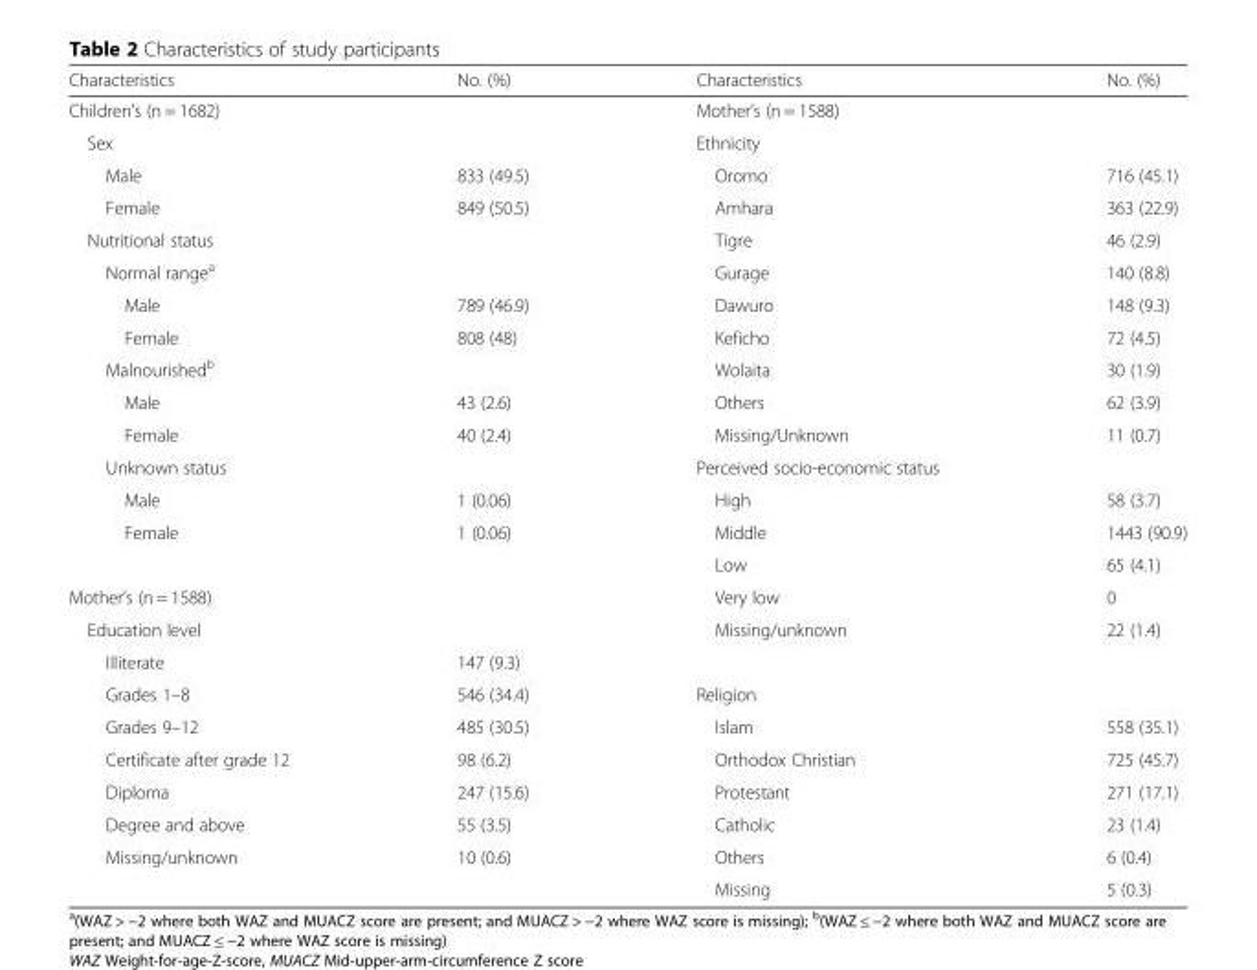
<table><thead><tr><td>Characteristics</td><td>No. (%)</td><td>Characteristics</td><td>No. (%)</td></tr></thead><tbody><tr><td>Children’s (n = 1682)</td><td></td><td>Mother’s (n = 1588)</td><td></td></tr><tr><td>Sex</td><td></td><td>Ethnicity</td><td></td></tr><tr><td>Male</td><td>833 (49.5)</td><td>Oromo</td><td>716 (45.1)</td></tr><tr><td>Female</td><td>849 (50.5)</td><td>Amhara</td><td>363 (22.9)</td></tr><tr><td>Nutritional status</td><td></td><td>Tigre</td><td>46 (2.9)</td></tr><tr><td>Normal range<sup>a</sup></td><td></td><td>Gurage</td><td>140 (8.8)</td></tr><tr><td>Male</td><td>789 (46.9)</td><td>Dawuro</td><td>148 (9.3)</td></tr><tr><td>Female</td><td>808 (48)</td><td>Keficho</td><td>72 (4.5)</td></tr><tr><td>Malnourished<sup>b</sup></td><td></td><td>Wolaita</td><td>30 (1.9)</td></tr><tr><td>Male</td><td>43 (2.6)</td><td>Others</td><td>62 (3.9)</td></tr><tr><td>Female</td><td>40 (2.4)</td><td>Missing/Unknown</td><td>11 (0.7)</td></tr><tr><td>Unknown status</td><td></td><td>Perceived socio-economic status</td><td></td></tr><tr><td>Male</td><td>1 (0.06)</td><td>High</td><td>58 (3.7)</td></tr><tr><td rowspan="2">Female</td><td>1 (0.06)</td><td>Middle</td><td>1443 (90.9)</td></tr><tr><td></td><td>Low</td><td>65 (4.1)</td></tr><tr><td>Mother’s (n = 1588)</td><td></td><td>Very low</td><td>0</td></tr><tr><td colspan="2">Education level</td><td rowspan="2">Missing/unknown</td><td rowspan="2">22 (1.4)</td></tr><tr><td>Illiterate</td><td>147 (9.3)</td></tr><tr><td>Grades 1–8</td><td>546 (34.4)</td><td>Religion</td><td></td></tr><tr><td>Grades 9–12</td><td>485 (30.5)</td><td>Islam</td><td>558 (35.1)</td></tr><tr><td>Certificate after grade 12</td><td>98 (6.2)</td><td>Orthodox Christian</td><td>725 (45.7)</td></tr><tr><td>Diploma</td><td>247 (15.6)</td><td>Protestant</td><td>271 (17.1)</td></tr><tr><td>Degree and above</td><td>55 (3.5)</td><td>Catholic</td><td>23 (1.4)</td></tr><tr><td rowspan="2">Missing/unknown</td><td>10 (0.6)</td><td>Others</td><td>6 (0.4)</td></tr><tr><td></td><td>Missing</td><td>5 (0.3)</td></tr></tbody></table>